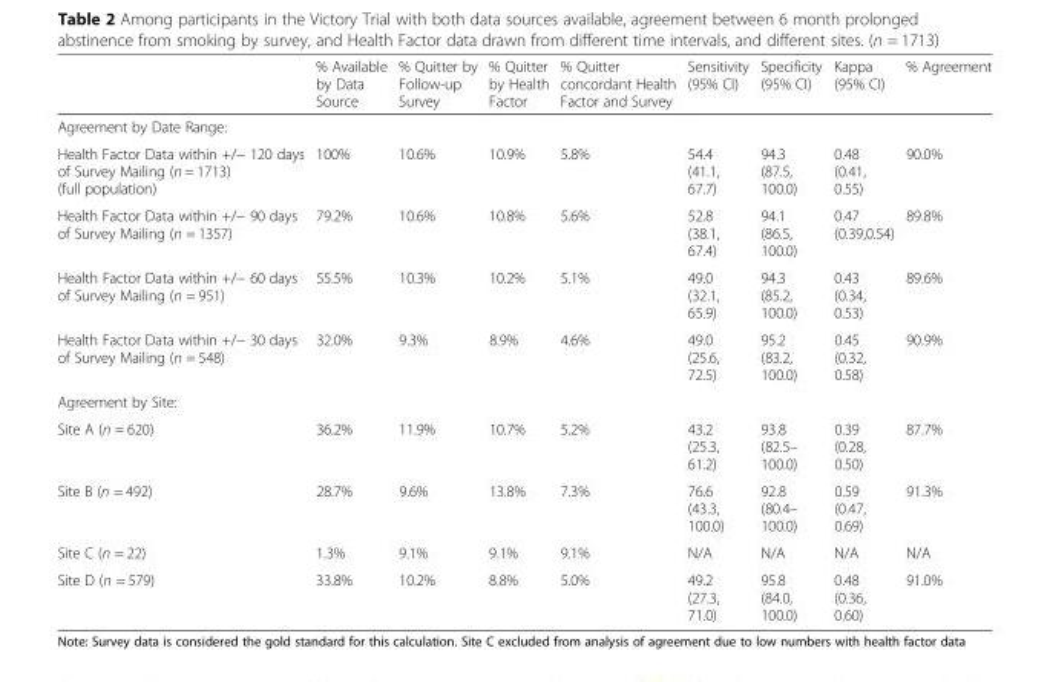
<table><thead><tr><td></td><td>% Available by Data Source</td><td>% Quitter by Follow-up Survey</td><td>% Quitter by Health Factor</td><td>% Quitter concordant Health Factor and Survey</td><td>Sensitivity (95% CI)</td><td>Specificity (95% CI)</td><td>Kappa (95% CI)</td><td>% Agreement</td></tr></thead><tbody><tr><td colspan="9">Agreement by Date Range:</td></tr><tr><td>Health Factor Data within +/− 120 days of Survey Mailing (n = 1713) (full population)</td><td>100%</td><td>10.6%</td><td>10.9%</td><td>5.8%</td><td>54.4 (41.1, 67.7)</td><td>94.3 (87.5, 100.0)</td><td>0.48 (0.41, 0.55)</td><td>90.0%</td></tr><tr><td>Health Factor Data within +/− 90 days of Survey Mailing (n = 1357)</td><td>79.2%</td><td>10.6%</td><td>10.8%</td><td>5.6%</td><td>52.8 (38.1, 67.4)</td><td>94.1 (86.5, 100.0)</td><td>0.47 (0.39,0.54)</td><td>89.8%</td></tr><tr><td>Health Factor Data within +/− 60 days of Survey Mailing (n = 951)</td><td>55.5%</td><td>10.3%</td><td>10.2%</td><td>5.1%</td><td>49.0 (32.1, 65.9)</td><td>94.3 (85.2, 100.0)</td><td>0.43 (0.34, 0.53)</td><td>89.6%</td></tr><tr><td>Health Factor Data within +/− 30 days of Survey Mailing (n = 548)</td><td>32.0%</td><td>9.3%</td><td>8.9%</td><td>4.6%</td><td>49.0 (25.6, 72.5)</td><td>95.2 (83.2, 100.0)</td><td>0.45 (0.32, 0.58)</td><td>90.9%</td></tr><tr><td colspan="9">Agreement by Site:</td></tr><tr><td>Site A (n = 620)</td><td>36.2%</td><td>11.9%</td><td>10.7%</td><td>5.2%</td><td>43.2 (25.3, 61.2)</td><td>93.8 (82.5– 100.0)</td><td>0.39 (0.28, 0.50)</td><td>87.7%</td></tr><tr><td>Site B (n = 492)</td><td>28.7%</td><td>9.6%</td><td>13.8%</td><td>7.3%</td><td>76.6 (43.3, 100.0)</td><td>92.8 (80.4– 100.0)</td><td>0.59 (0.47, 0.69)</td><td>91.3%</td></tr><tr><td>Site C (n = 22)</td><td>1.3%</td><td>9.1%</td><td>9.1%</td><td>9.1%</td><td>N/A</td><td>N/A</td><td>N/A</td><td>N/A</td></tr><tr><td>Site D (n = 579)</td><td>33.8%</td><td>10.2%</td><td>8.8%</td><td>5.0%</td><td>49.2 (27.3, 71.0)</td><td>95.8 (84.0, 100.0)</td><td>0.48 (0.36, 0.60)</td><td>91.0%</td></tr></tbody></table>